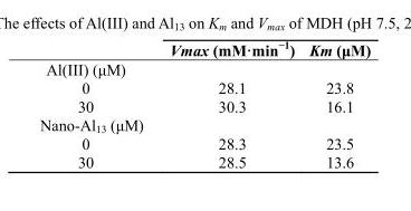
<table><thead><tr><td></td><td>Vmax (mM·min<sup>−1</sup>)</td><td>Km (μM)</td></tr></thead><tbody><tr><td colspan="3">Al(III) (μM)</td></tr><tr><td>0</td><td>28.1</td><td>23.8</td></tr><tr><td>30</td><td>30.3</td><td>16.1</td></tr><tr><td colspan="3">Nano-Al<sub>13</sub> (μM)</td></tr><tr><td>0</td><td>28.3</td><td>23.5</td></tr><tr><td>30</td><td>28.5</td><td>13.6</td></tr></tbody></table>